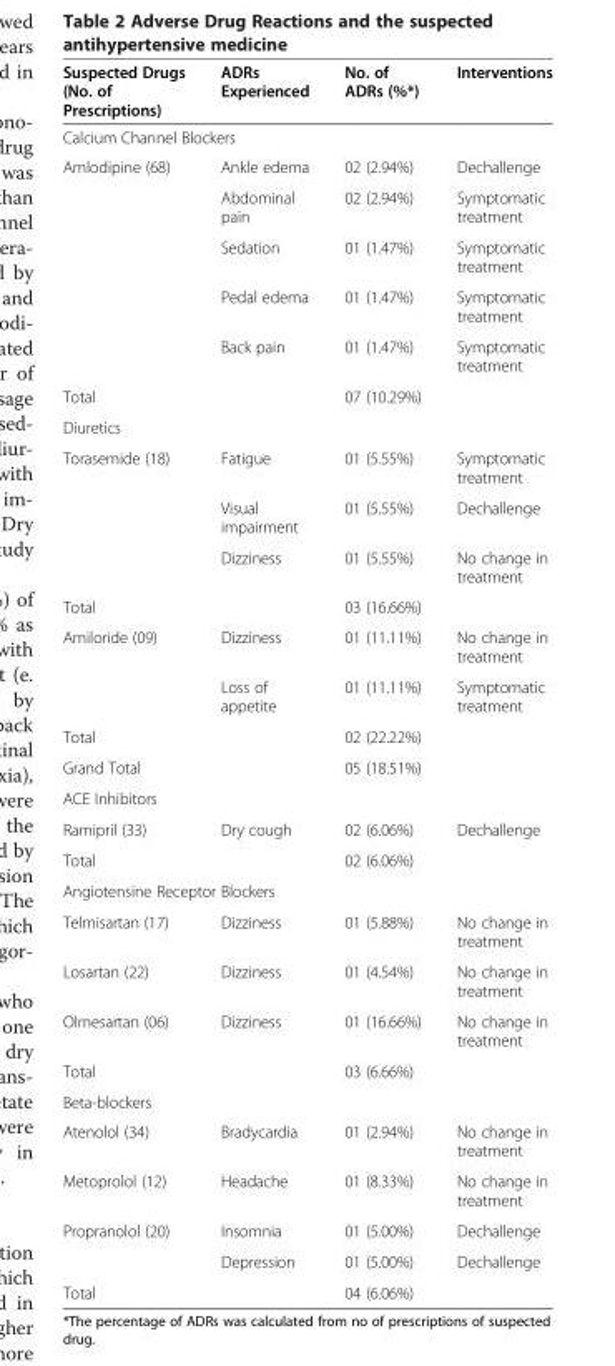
<table><thead><tr><td>Suspected Drugs (No. of Prescriptions)</td><td>ADRs Experienced</td><td>No. of ADRs (%*)</td><td>Interventions</td></tr></thead><tbody><tr><td colspan="4">Calcium Channel Blockers</td></tr><tr><td rowspan="5">Amlodipine (68)</td><td>Ankle edema</td><td>02 (2.94%)</td><td>Dechallenge</td></tr><tr><td>Abdominal pain</td><td>02 (2.94%)</td><td>Symptomatic treatment</td></tr><tr><td>Sedation</td><td>01 (1.47%)</td><td>Symptomatic treatment</td></tr><tr><td>Pedal edema</td><td>01 (1.47%)</td><td>Symptomatic treatment</td></tr><tr><td>Back pain</td><td>01 (1.47%)</td><td>Symptomatic treatment</td></tr><tr><td>Total</td><td></td><td>07 (10.29%)</td><td></td></tr><tr><td colspan="4">Diuretics</td></tr><tr><td rowspan="3">Torasemide (18)</td><td>Fatigue</td><td>01 (5.55%)</td><td>Symptomatic treatment</td></tr><tr><td>Visual impairment</td><td>01 (5.55%)</td><td>Dechallenge</td></tr><tr><td>Dizziness</td><td>01 (5.55%)</td><td>No change in treatment</td></tr><tr><td>Total</td><td></td><td>03 (16.66%)</td><td></td></tr><tr><td rowspan="2">Amiloride (09)</td><td>Dizziness</td><td>01 (11.11%)</td><td>No change in treatment</td></tr><tr><td>Loss of appetite</td><td>01 (11.11%)</td><td>Symptomatic treatment</td></tr><tr><td>Total</td><td></td><td>02 (22.22%)</td><td></td></tr><tr><td>Grand Total</td><td></td><td>05 (18.51%)</td><td></td></tr><tr><td colspan="4">ACE Inhibitors</td></tr><tr><td>Ramipril (33)</td><td>Dry cough</td><td>02 (6.06%)</td><td>Dechallenge</td></tr><tr><td>Total</td><td></td><td>02 (6.06%)</td><td></td></tr><tr><td colspan="4">Angiotensine Receptor Blockers</td></tr><tr><td>Telmisartan (17)</td><td>Dizziness</td><td>01 (5.88%)</td><td>No change in treatment</td></tr><tr><td>Losartan (22)</td><td>Dizziness</td><td>01 (4.54%)</td><td>No change in treatment</td></tr><tr><td>Olmesartan (06)</td><td>Dizziness</td><td>01 (16.66%)</td><td>No change in treatment</td></tr><tr><td>Total</td><td></td><td>03 (6.66%)</td><td></td></tr><tr><td colspan="4">Beta-blockers</td></tr><tr><td>Atenolol (34)</td><td>Bradycardia</td><td>01 (2.94%)</td><td>No change in treatment</td></tr><tr><td>Metoprolol (12)</td><td>Headache</td><td>01 (8.33%)</td><td>No change in treatment</td></tr><tr><td rowspan="2">Propranolol (20)</td><td>Insomnia</td><td>01 (5.00%)</td><td>Dechallenge</td></tr><tr><td>Depression</td><td>01 (5.00%)</td><td>Dechallenge</td></tr><tr><td>Total</td><td></td><td>04 (6.06%)</td><td></td></tr></tbody></table>